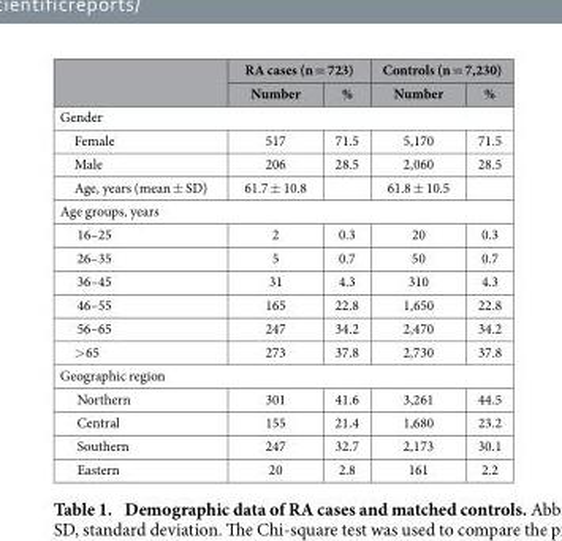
<table><thead><tr><td rowspan="2"></td><td colspan="2">RA cases (n = 723)</td><td colspan="2">Controls (n = 7,230)</td></tr><tr><td>Number</td><td>%</td><td>Number</td><td>%</td></tr></thead><tbody><tr><td colspan="5">Gender</td></tr><tr><td>Female</td><td>517</td><td>71.5</td><td>5,170</td><td>71.5</td></tr><tr><td>Male</td><td>206</td><td>28.5</td><td>2,060</td><td>28.5</td></tr><tr><td>Age, years (mean ± SD)</td><td>61.7 ± 10.8</td><td></td><td>61.8 ± 10.5</td><td></td></tr><tr><td colspan="5">Age groups, years</td></tr><tr><td>16–25</td><td>2</td><td>0.3</td><td>20</td><td>0.3</td></tr><tr><td>26–35</td><td>5</td><td>0.7</td><td>50</td><td>0.7</td></tr><tr><td>36–45</td><td>31</td><td>4.3</td><td>310</td><td>4.3</td></tr><tr><td>46–55</td><td>165</td><td>22.8</td><td>1,650</td><td>22.8</td></tr><tr><td>56–65</td><td>247</td><td>34.2</td><td>2,470</td><td>34.2</td></tr><tr><td>&gt; 65</td><td>273</td><td>37.8</td><td>2,730</td><td>37.8</td></tr><tr><td colspan="5">Geographic region</td></tr><tr><td>Northern</td><td>301</td><td>41.6</td><td>3,261</td><td>44.5</td></tr><tr><td>Central</td><td>155</td><td>21.4</td><td>1,680</td><td>23.2</td></tr><tr><td>Southern</td><td>247</td><td>32.7</td><td>2,173</td><td>30.1</td></tr><tr><td>Eastern</td><td>20</td><td>2.8</td><td>161</td><td>2.2</td></tr></tbody></table>